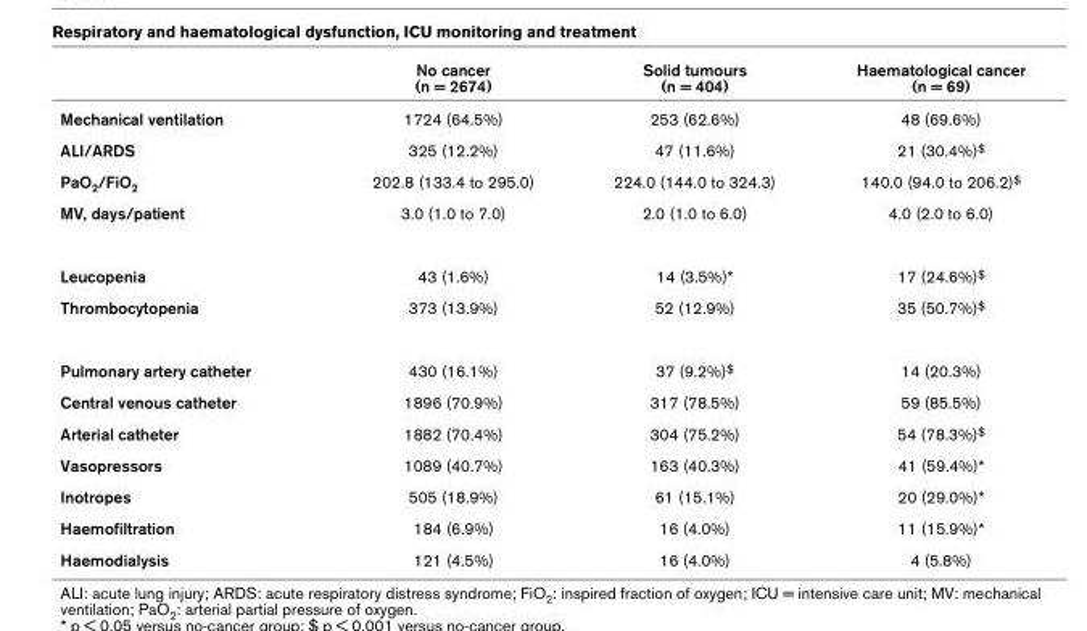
<table><thead><tr><td></td><td>No cancer (n = 2674)</td><td>Solid tumours (n = 404)</td><td>Haematological cancer (n = 69)</td></tr></thead><tbody><tr><td>Mechanical ventilation</td><td>1724 (64.5%)</td><td>253 (62.6%)</td><td>48 (69.6%)</td></tr><tr><td>ALI/ARDS</td><td>325 (12.2%)</td><td>47 (11.6%)</td><td>21 (30.4%)<sup>$</sup></td></tr><tr><td>PaO<sub>2</sub>/FiO<sub>2</sub></td><td>202.8 (133.4 to 295.0)</td><td>224.0 (144.0 to 324.3)</td><td>140.0 (94.0 to 206.2)<sup>$</sup></td></tr><tr><td>MV, days/patient</td><td>3.0 (1.0 to 7.0)</td><td>2.0 (1.0 to 6.0)</td><td>4.0 (2.0 to 6.0)</td></tr><tr><td>Leucopenia</td><td>43 (1.6%)</td><td>14 (3.5%)*</td><td>17 (24.6%)<sup>$</sup></td></tr><tr><td>Thrombocytopenia</td><td>373 (13.9%)</td><td>52 (12.9%)</td><td>35 (50.7%)<sup>$</sup></td></tr><tr><td>Pulmonary artery catheter</td><td>430 (16.1%)</td><td>37 (9.2%)<sup>$</sup></td><td>14 (20.3%)</td></tr><tr><td>Central venous catheter</td><td>1896 (70.9%)</td><td>317 (78.5%)</td><td>59 (85.5%)</td></tr><tr><td>Arterial catheter</td><td>1882 (70.4%)</td><td>304 (75.2%)</td><td>54 (78.3%)<sup>$</sup></td></tr><tr><td>Vasopressors</td><td>1089 (40.7%)</td><td>163 (40.3%)</td><td>41 (59.4%)*</td></tr><tr><td>Inotropes</td><td>505 (18.9%)</td><td>61 (15.1%)</td><td>20 (29.0%)*</td></tr><tr><td>Haemofiltration</td><td>184 (6.9%)</td><td>16 (4.0%)</td><td>11 (15.9%)*</td></tr><tr><td>Haemodialysis</td><td>121 (4.5%)</td><td>16 (4.0%)</td><td>4 (5.8%)</td></tr></tbody></table>